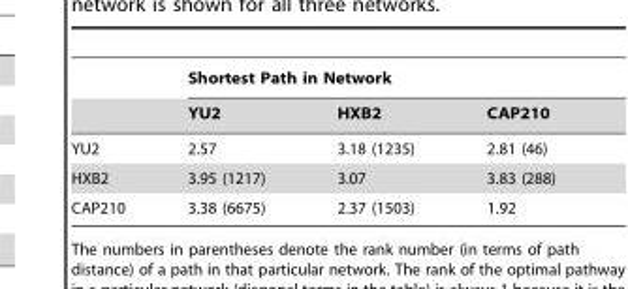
<table><thead><tr><td rowspan="2"></td><td colspan="3">Shortest Path in Network</td></tr><tr><td>YU2</td><td>HXB2</td><td>CAP210</td></tr></thead><tbody><tr><td>YU2</td><td>2.57</td><td>3.18 (1235)</td><td>2.81 (46)</td></tr><tr><td>HXB2</td><td>3.95 (1217)</td><td>3.07</td><td>3.83 (288)</td></tr><tr><td>CAP210</td><td>3.38 (6675)</td><td>2.37 (1503)</td><td>1.92</td></tr></tbody></table>